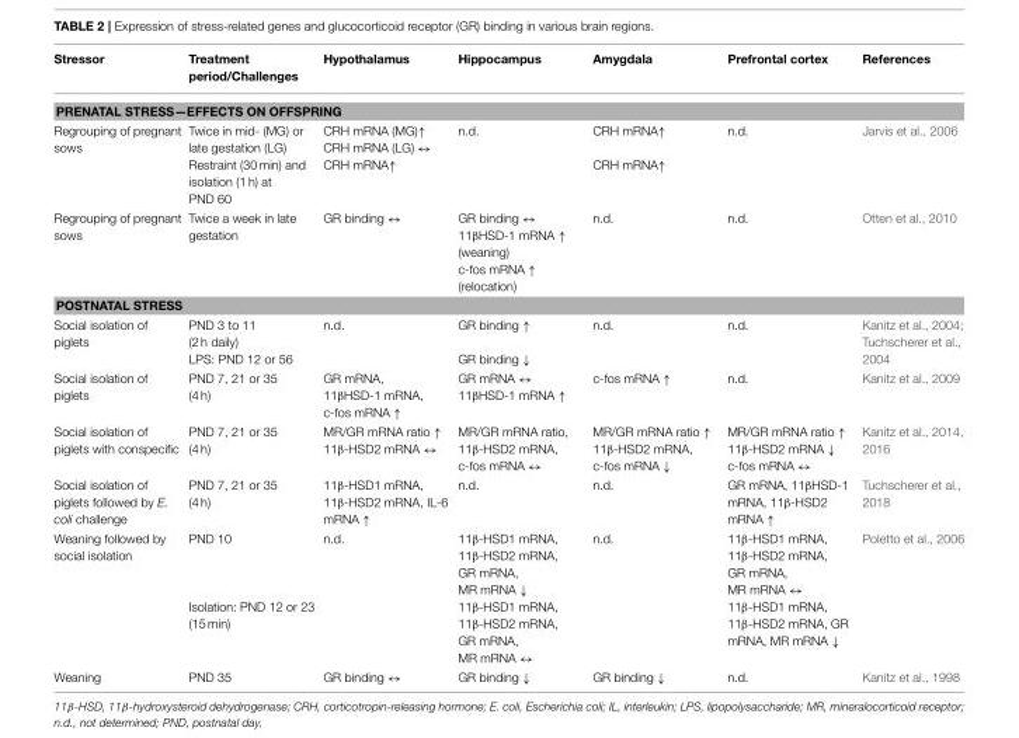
<table><thead><tr><td>Stressor</td><td>Treatment period/Challenges</td><td>Hypothalamus</td><td>Hippocampus</td><td>Amygdala</td><td>Prefrontal cortex</td><td>References</td></tr></thead><tbody><tr><td colspan="7">PRENATAL STRESS—EFFECTS ON OFFSPRING</td></tr><tr><td>Regrouping of pregnant sows</td><td>Twice in mid- (MG) or late gestation (LG) Restraint (30 min) and isolation (1 h) at PND 60</td><td>CRH mRNA (MG)↑ CRH mRNA (LG) ↔ CRH mRNA↑</td><td>n.d.</td><td>CRH mRNA↑ CRH mRNA↑</td><td>n.d.</td><td>Jarvis et al., 2006</td></tr><tr><td>Regrouping of pregnant sows</td><td>Twice a week in late gestation</td><td>GR binding ↔</td><td>GR binding ↔ 11βHSD-1 mRNA ↑ (weaning) c-fos mRNA ↑ (relocation)</td><td>n.d.</td><td>n.d.</td><td>Otten et al., 2010</td></tr><tr><td colspan="7">POSTNATAL STRESS</td></tr><tr><td>Social isolation of piglets</td><td>PND 3 to 11 (2 h daily) LPS: PND 12 or 56</td><td>n.d.</td><td>GR binding ↑ GR binding ↓</td><td>n.d.</td><td>n.d.</td><td>Kanitz et al., 2004; Tuchscherer et al., 2004</td></tr><tr><td>Social isolation of piglets</td><td>PND 7, 21 or 35 (4 h)</td><td>GR mRNA, 11βHSD-1 mRNA, c-fos mRNA ↑</td><td>GR mRNA ↔ 11βHSD-1 mRNA ↑</td><td>c-fos mRNA ↑</td><td>n.d.</td><td>Kanitz et al., 2009</td></tr><tr><td>Social isolation of piglets with conspecific</td><td>PND 7, 21 or 35 (4 h)</td><td>MR/GR mRNA ratio ↑ 11β-HSD2 mRNA ↔</td><td>MR/GR mRNA ratio, 11β-HSD2 mRNA, c-fos mRNA ↔</td><td>MR/GR mRNA ratio ↑ 11β-HSD2 mRNA, c-fos mRNA ↓</td><td>MR/GR mRNA ratio ↑ 11β-HSD2 mRNA ↓ c-fos mRNA ↔</td><td>Kanitz et al., 2014, 2016</td></tr><tr><td>Social isolation of piglets followed by E. coli challenge</td><td>PND 7, 21 or 35 (4 h)</td><td>11β-HSD1 mRNA, 11β-HSD2 mRNA, IL-6 mRNA ↑</td><td>n.d.</td><td>n.d.</td><td>GR mRNA, 11βHSD-1 mRNA, 11β-HSD2 mRNA ↑</td><td>Tuchscherer et al., 2018</td></tr><tr><td>Weaning followed by social isolation</td><td>PND 10 Isolation: PND 12 or 23 (15 min)</td><td>n.d.</td><td>11β-HSD1 mRNA, 11β-HSD2 mRNA, GR mRNA, MR mRNA ↓ 11β-HSD1 mRNA, 11β-HSD2 mRNA, GR mRNA, MR mRNA ↔</td><td>n.d.</td><td>11β-HSD1 mRNA, 11β-HSD2 mRNA, GR mRNA, MR mRNA ↔ 11β-HSD1 mRNA, 11β-HSD2 mRNA, GR mRNA, MR mRNA ↓</td><td>Poletto et al., 2006</td></tr><tr><td>Weaning</td><td>PND 35</td><td>GR binding ↔</td><td>GR binding ↓</td><td>GR binding ↓</td><td>n.d.</td><td>Kanitz et al., 1998</td></tr></tbody></table>